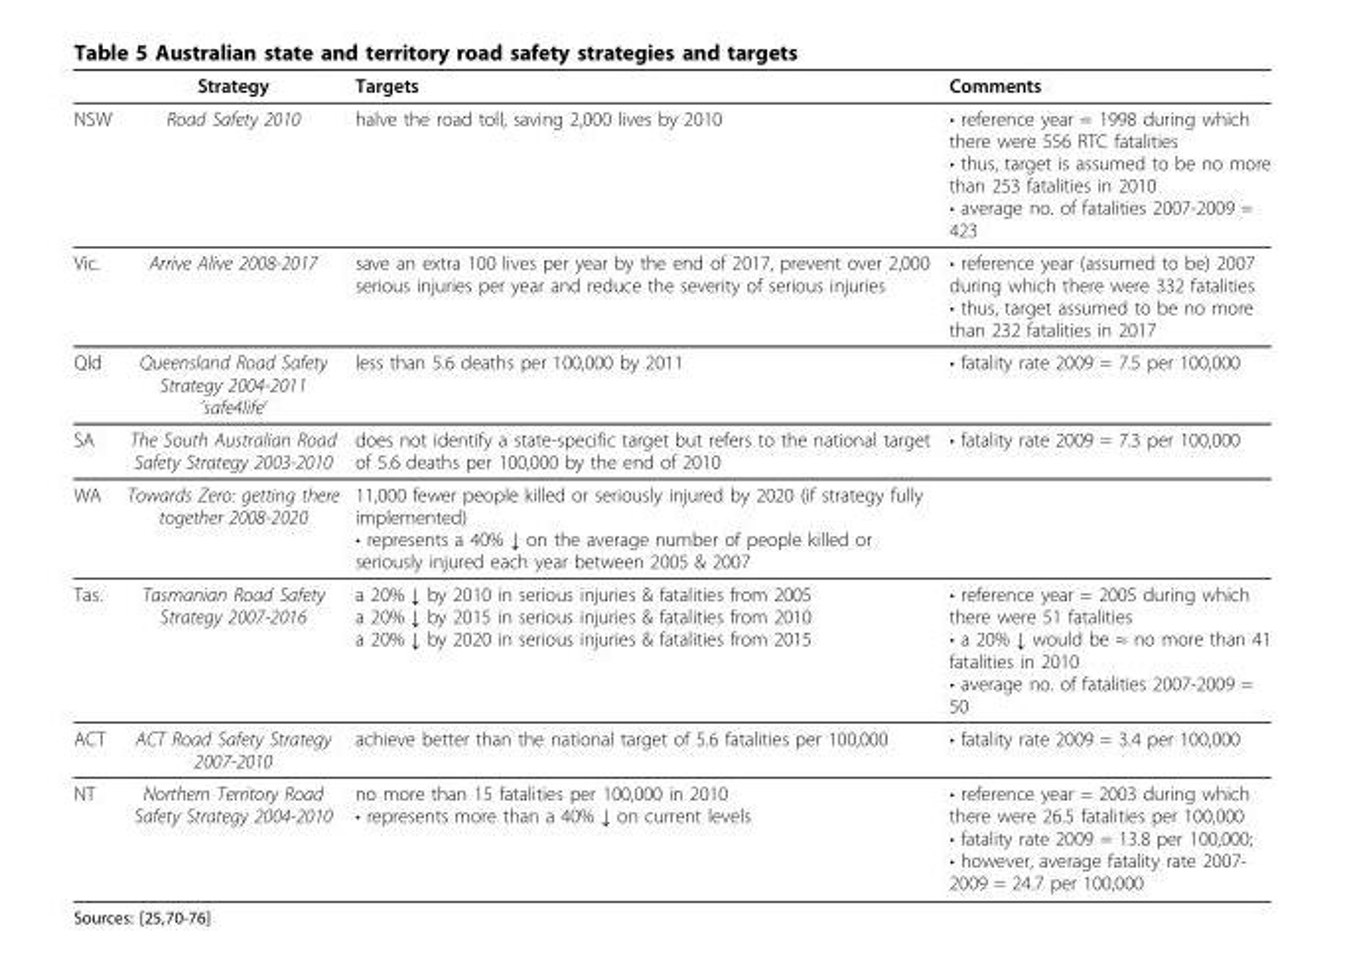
<table><thead><tr><td></td><td>Strategy</td><td>Targets</td><td>Comments</td></tr></thead><tbody><tr><td>NSW</td><td>Road Safety 2010</td><td>halve the road toll, saving 2,000 lives by 2010</td><td>• reference year = 1998 during which there were 556 RTC fatalities • thus, target is assumed to be no more than 253 fatalities in 2010 • average no. of fatalities 2007-2009 = 423</td></tr><tr><td>Vic.</td><td>Arrive Alive 2008-2017</td><td>save an extra 100 lives per year by the end of 2017, prevent over 2,000 serious injuries per year and reduce the severity of serious injuries</td><td>• reference year (assumed to be) 2007 during which there were 332 fatalities • thus, target assumed to be no more than 232 fatalities in 2017</td></tr><tr><td>Qld</td><td>Queensland Road Safety Strategy 2004-2011 ’safe4life’</td><td>less than 5.6 deaths per 100,000 by 2011</td><td>• fatality rate 2009 = 7.5 per 100,000</td></tr><tr><td>SA</td><td>The South Australian Road Safety Strategy 2003-2010</td><td>does not identify a state-specific target but refers to the national target of 5.6 deaths per 100,000 by the end of 2010</td><td>• fatality rate 2009 = 7.3 per 100,000</td></tr><tr><td>WA</td><td>Towards Zero: getting there together 2008-2020</td><td>11,000 fewer people killed or seriously injured by 2020 (if strategy fully implemented) • represents a 40% ↓ on the average number of people killed or seriously injured each year between 2005 &amp; 2007</td><td></td></tr><tr><td>Tas.</td><td>Tasmanian Road Safety Strategy 2007-2016</td><td>a 20% ↓ by 2010 in serious injuries &amp; fatalities from 2005 a 20% ↓ by 2015 in serious injuries &amp; fatalities from 2010 a 20% ↓ by 2020 in serious injuries &amp; fatalities from 2015</td><td>• reference year = 2005 during which there were 51 fatalities • a 20% ↓ would be ≈ no more than 41 fatalities in 2010 • average no. of fatalities 2007-2009 = 50</td></tr><tr><td>ACT</td><td>ACT Road Safety Strategy 2007-2010</td><td>achieve better than the national target of 5.6 fatalities per 100,000</td><td>• fatality rate 2009 = 3.4 per 100,000</td></tr><tr><td>NT</td><td>Northern Territory Road Safety Strategy 2004-2010</td><td>no more than 15 fatalities per 100,000 in 2010 • represents more than a 40% ↓ on current levels</td><td>• reference year = 2003 during which there were 26.5 fatalities per 100,000 • fatality rate 2009 = 13.8 per 100,000; • however, average fatality rate 2007- 2009 = 24.7 per 100,000</td></tr></tbody></table>